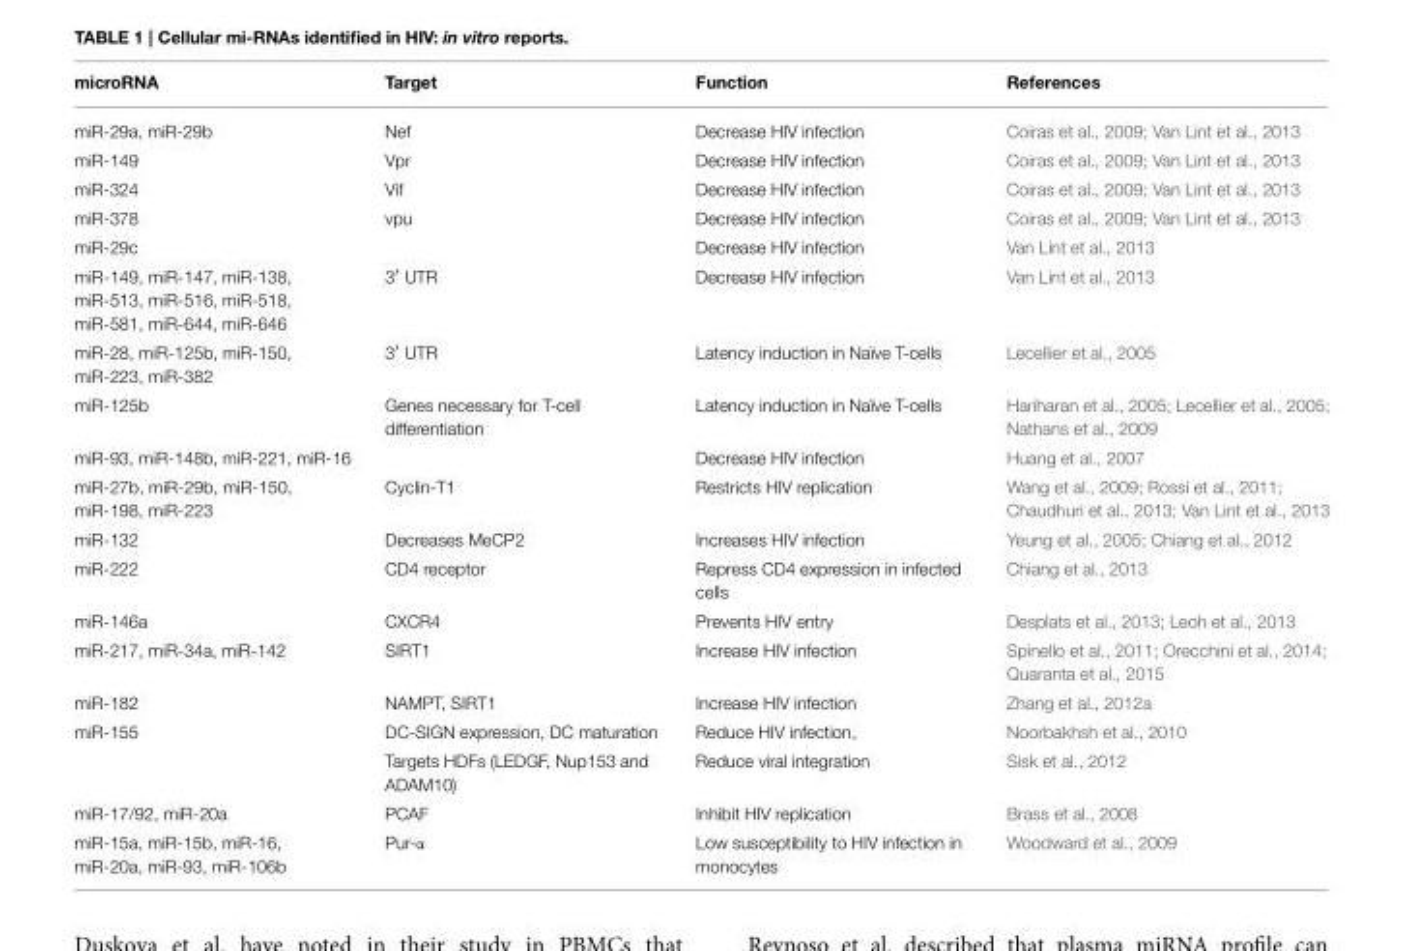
<table><thead><tr><td>microRNA</td><td>Target</td><td>Function</td><td>References</td></tr></thead><tbody><tr><td>miR-29a, miR-29b</td><td>Nef</td><td>Decrease HIV infection</td><td>Coiras et al., 2009; Van Lint et al., 2013</td></tr><tr><td>miR-149</td><td>Vpr</td><td>Decrease HIV infection</td><td>Coiras et al., 2009; Van Lint et al., 2013</td></tr><tr><td>miR-324</td><td>Vif</td><td>Decrease HIV infection</td><td>Coiras et al., 2009; Van Lint et al., 2013</td></tr><tr><td>miR-378</td><td>vpu</td><td>Decrease HIV infection</td><td>Coiras et al., 2009; Van Lint et al., 2013</td></tr><tr><td>miR-29c</td><td></td><td>Decrease HIV infection</td><td>Van Lint et al., 2013</td></tr><tr><td>miR-149, miR-147, miR-138, miR-513, miR-516, miR-518, miR-581, miR-644, miR-646</td><td>3′ UTR</td><td>Decrease HIV infection</td><td>Van Lint et al., 2013</td></tr><tr><td>miR-28, miR-125b, miR-150, miR-223, miR-382</td><td>3′ UTR</td><td>Latency induction in Naïve T-cells</td><td>Lecellier et al., 2005</td></tr><tr><td>miR-125b</td><td>Genes necessary for T-cell differentiation</td><td>Latency induction in Naïve T-cells</td><td>Hariharan et al., 2005; Lecellier et al., 2005; Nathans et al., 2009</td></tr><tr><td>miR-93, miR-148b, miR-221, miR-16</td><td></td><td>Decrease HIV infection</td><td>Huang et al., 2007</td></tr><tr><td>miR-27b, miR-29b, miR-150, miR-198, miR-223</td><td>Cyclin-T1</td><td>Restricts HIV replication</td><td>Wang et al., 2009; Rossi et al., 2011; Chaudhuri et al., 2013; Van Lint et al., 2013</td></tr><tr><td>miR-132</td><td>Decreases MeCP2</td><td>Increases HIV infection</td><td>Yeung et al., 2005; Chiang et al., 2012</td></tr><tr><td>miR-222</td><td>CD4 receptor</td><td>Repress CD4 expression in infected cells</td><td>Chiang et al., 2013</td></tr><tr><td>miR-146a</td><td>CXCR4</td><td>Prevents HIV entry</td><td>Desplats et al., 2013; Leoh et al., 2013</td></tr><tr><td>miR-217, miR-34a, miR-142</td><td>SIRT1</td><td>Increase HIV infection</td><td>Spinello et al., 2011; Orecchini et al., 2014; Quaranta et al., 2015</td></tr><tr><td>miR-182</td><td>NAMPT, SIRT1</td><td>Increase HIV infection</td><td>Zhang et al., 2012a</td></tr><tr><td rowspan="2">miR-155</td><td>DC-SIGN expression, DC maturation</td><td>Reduce HIV infection,</td><td>Noorbakhsh et al., 2010</td></tr><tr><td>Targets HDFs (LEDGF, Nup153 and ADAM10)</td><td>Reduce viral integration</td><td>Sisk et al., 2012</td></tr><tr><td>miR-17/92, miR-20a</td><td>PCAF</td><td>Inhibit HIV replication</td><td>Brass et al., 2008</td></tr><tr><td>miR-15a, miR-15b, miR-16, miR-20a, miR-93, miR-106b</td><td>Pur-α</td><td>Low susceptibility to HIV infection in monocytes</td><td>Woodward et al., 2009</td></tr></tbody></table>